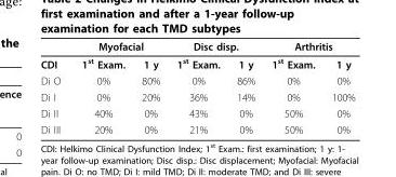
<table><thead><tr><td rowspan="2">CDI</td><td colspan="2">Myofacial</td><td colspan="2">Disc disp.</td><td colspan="2">Arthritis</td></tr><tr><td>1<sup>st</sup> Exam.</td><td>1 y</td><td>1<sup>st</sup> Exam.</td><td>1 y</td><td>1<sup>st</sup> Exam.</td><td>1 y</td></tr></thead><tbody><tr><td>Di O</td><td>0%</td><td>80%</td><td>0%</td><td>86%</td><td>0%</td><td>0%</td></tr><tr><td>Di I</td><td>0%</td><td>20%</td><td>36%</td><td>14%</td><td>0%</td><td>100%</td></tr><tr><td>Di II</td><td>40%</td><td>0%</td><td>43%</td><td>0%</td><td>50%</td><td>0%</td></tr><tr><td>Di III</td><td>20%</td><td>0%</td><td>21%</td><td>0%</td><td>50%</td><td>0%</td></tr></tbody></table>